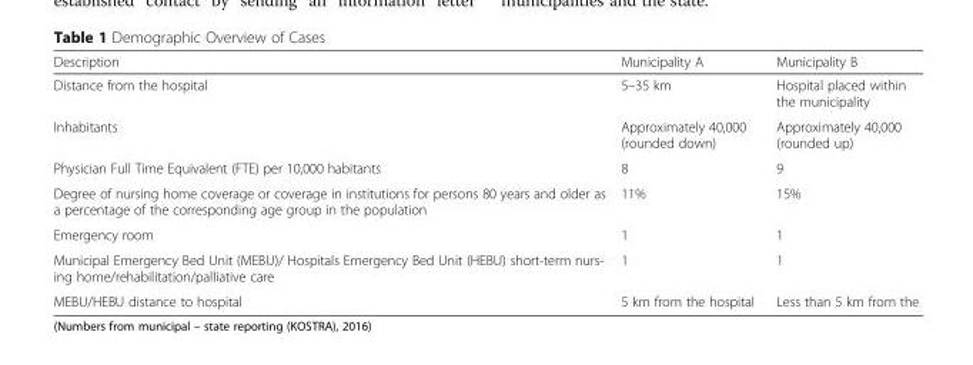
<table><thead><tr><td>Description</td><td>Municipality A</td><td>Municipality B</td></tr></thead><tbody><tr><td>Distance from the hospital</td><td>5–35 km</td><td>Hospital placed within the municipality</td></tr><tr><td>Inhabitants</td><td>Approximately 40,000 (rounded down)</td><td>Approximately 40,000 (rounded up)</td></tr><tr><td>Physician Full Time Equivalent (FTE) per 10,000 habitants</td><td>8</td><td>9</td></tr><tr><td>Degree of nursing home coverage or coverage in institutions for persons 80 years and older as a percentage of the corresponding age group in the population</td><td>11%</td><td>15%</td></tr><tr><td>Emergency room</td><td>1</td><td>1</td></tr><tr><td>Municipal Emergency Bed Unit (MEBU)/ Hospitals Emergency Bed Unit (HEBU) short-term nurs- ing home/rehabilitation/palliative care</td><td>1</td><td>1</td></tr><tr><td>MEBU/HEBU distance to hospital</td><td>5 km from the hospital</td><td>Less than 5 km from the</td></tr></tbody></table>